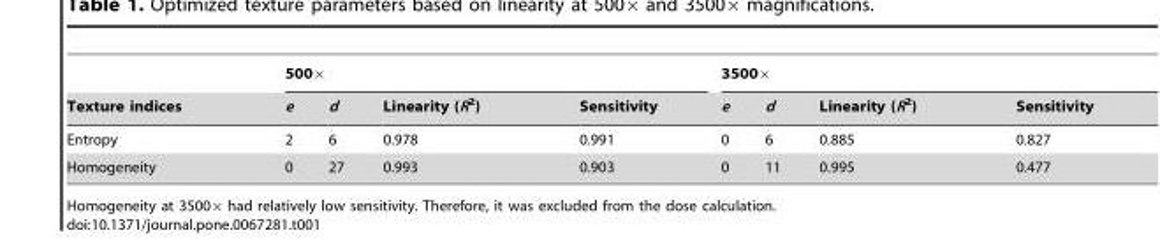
<table><thead><tr><td rowspan="2">Texture indices</td><td colspan="4">500×</td><td colspan="4">3500×</td></tr><tr><td>e</td><td>d</td><td>Linearity (R<sup>2</sup>)</td><td>Sensitivity</td><td>e</td><td>d</td><td>Linearity (R<sup>2</sup>)</td><td>Sensitivity</td></tr></thead><tbody><tr><td>Entropy</td><td>2</td><td>6</td><td>0.978</td><td>0.991</td><td>0</td><td>6</td><td>0.885</td><td>0.827</td></tr><tr><td>Homogeneity</td><td>0</td><td>27</td><td>0.993</td><td>0.903</td><td>0</td><td>11</td><td>0.995</td><td>0.477</td></tr></tbody></table>